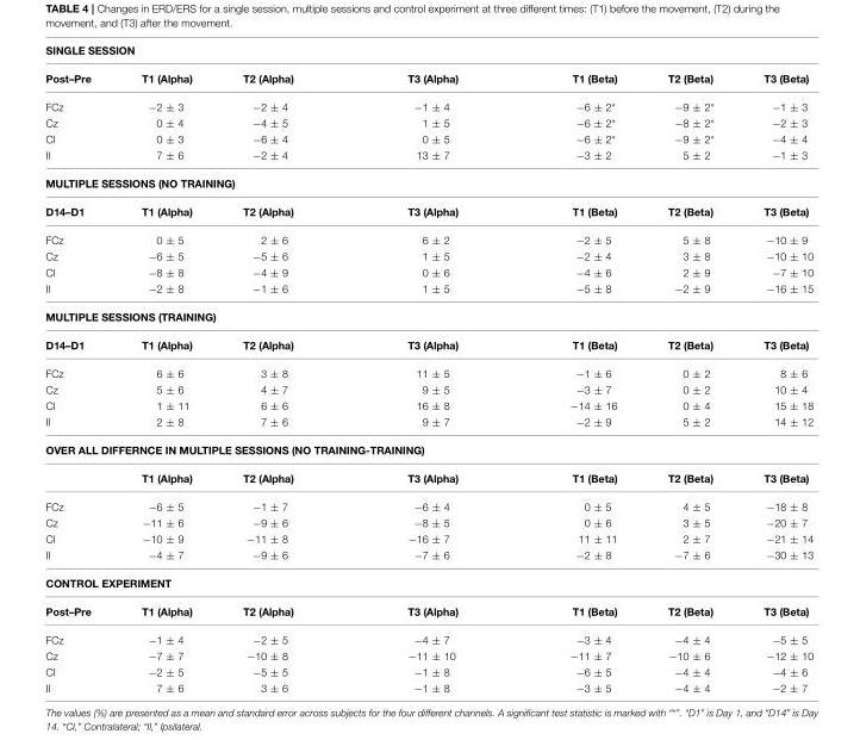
<table><thead><tr><td colspan="7">SINGLE SESSION</td></tr><tr><td>Post–Pre</td><td>T1 (Alpha)</td><td>T2 (Alpha)</td><td>T3 (Alpha)</td><td>T1 (Beta)</td><td>T2 (Beta)</td><td>T3 (Beta)</td></tr></thead><tbody><tr><td>FCz</td><td>−2 ± 3</td><td>−2 ± 4</td><td>−1 ± 4</td><td>−6 ± 2*</td><td>−9 ± 2*</td><td>−1 ± 3</td></tr><tr><td>Cz</td><td>0 ± 4</td><td>−4 ± 5</td><td>1 ± 5</td><td>−6 ± 2*</td><td>−8 ± 2*</td><td>−2 ± 3</td></tr><tr><td>Cl</td><td>0 ± 3</td><td>−6 ± 4</td><td>0 ± 5</td><td>−6 ± 2*</td><td>−9 ± 2*</td><td>−4 ± 4</td></tr><tr><td>Il</td><td>7 ± 6</td><td>−2 ± 4</td><td>13 ± 7</td><td>−3 ± 2</td><td>5 ± 2</td><td>−1 ± 3</td></tr><tr><td colspan="7">MULTIPLE SESSIONS (NO TRAINING)</td></tr><tr><td>D14–D1</td><td>T1 (Alpha)</td><td>T2 (Alpha)</td><td>T3 (Alpha)</td><td>T1 (Beta)</td><td>T2 (Beta)</td><td>T3 (Beta)</td></tr><tr><td>FCz</td><td>0 ± 5</td><td>2 ± 6</td><td>6 ± 2</td><td>−2 ± 5</td><td>5 ± 8</td><td>−10 ± 9</td></tr><tr><td>Cz</td><td>−6 ± 5</td><td>−5 ± 6</td><td>1 ± 5</td><td>−2 ± 4</td><td>3 ± 8</td><td>−10 ± 10</td></tr><tr><td>Cl</td><td>−8 ± 8</td><td>−4 ± 9</td><td>0 ± 6</td><td>−4 ± 6</td><td>2 ± 9</td><td>−7 ± 10</td></tr><tr><td>Il</td><td>−2 ± 8</td><td>−1 ± 6</td><td>1 ± 5</td><td>−5 ± 8</td><td>−2 ± 9</td><td>−16 ± 15</td></tr><tr><td colspan="7">MULTIPLE SESSIONS (TRAINING)</td></tr><tr><td>D14–D1</td><td>T1 (Alpha)</td><td>T2 (Alpha)</td><td>T3 (Alpha)</td><td>T1 (Beta)</td><td>T2 (Beta)</td><td>T3 (Beta)</td></tr><tr><td>FCz</td><td>6 ± 6</td><td>3 ± 8</td><td>11 ± 5</td><td>−1 ± 6</td><td>0 ± 2</td><td>8 ± 6</td></tr><tr><td>Cz</td><td>5 ± 6</td><td>4 ± 7</td><td>9 ± 5</td><td>−3 ± 7</td><td>0 ± 2</td><td>10 ± 4</td></tr><tr><td>Cl</td><td>1 ± 11</td><td>6 ± 6</td><td>16 ± 8</td><td>−14 ± 16</td><td>0 ± 4</td><td>15 ± 18</td></tr><tr><td>Il</td><td>2 ± 8</td><td>7 ± 6</td><td>9 ± 7</td><td>−2 ± 9</td><td>5 ± 2</td><td>14 ± 12</td></tr><tr><td colspan="7">OVER ALL DIFFERNCE IN MULTIPLE SESSIONS (NO TRAINING-TRAINING)</td></tr><tr><td></td><td>T1 (Alpha)</td><td>T2 (Alpha)</td><td>T3 (Alpha)</td><td>T1 (Beta)</td><td>T2 (Beta)</td><td>T3 (Beta)</td></tr><tr><td>FCz</td><td>−6 ± 5</td><td>−1 ± 7</td><td>−6 ± 4</td><td>0 ± 5</td><td>4 ± 5</td><td>−18 ± 8</td></tr><tr><td>Cz</td><td>−11 ± 6</td><td>−9 ± 6</td><td>−8 ± 5</td><td>0 ± 6</td><td>3 ± 5</td><td>−20 ± 7</td></tr><tr><td>Cl</td><td>−10 ± 9</td><td>−11 ± 8</td><td>−16 ± 7</td><td>11 ± 11</td><td>2 ± 7</td><td>−21 ± 14</td></tr><tr><td>Il</td><td>−4 ± 7</td><td>−9 ± 6</td><td>−7 ± 6</td><td>−2 ± 8</td><td>−7 ± 6</td><td>−30 ± 13</td></tr><tr><td colspan="7">CONTROL EXPERIMENT</td></tr><tr><td>Post–Pre</td><td>T1 (Alpha)</td><td>T2 (Alpha)</td><td>T3 (Alpha)</td><td>T1 (Beta)</td><td>T2 (Beta)</td><td>T3 (Beta)</td></tr><tr><td>FCz</td><td>−1 ± 4</td><td>−2 ± 5</td><td>−4 ± 7</td><td>−3 ± 4</td><td>−4 ± 4</td><td>−5 ± 5</td></tr><tr><td>Cz</td><td>−7 ± 7</td><td>−10 ± 8</td><td>−11 ± 10</td><td>−11 ± 7</td><td>−10 ± 6</td><td>−12 ± 10</td></tr><tr><td>Cl</td><td>−2 ± 5</td><td>−5 ± 5</td><td>−1 ± 8</td><td>−6 ± 5</td><td>−4 ± 4</td><td>−4 ± 6</td></tr><tr><td>Il</td><td>7 ± 6</td><td>3 ± 6</td><td>−1 ± 8</td><td>−3 ± 5</td><td>−4 ± 4</td><td>−2 ± 7</td></tr></tbody></table>